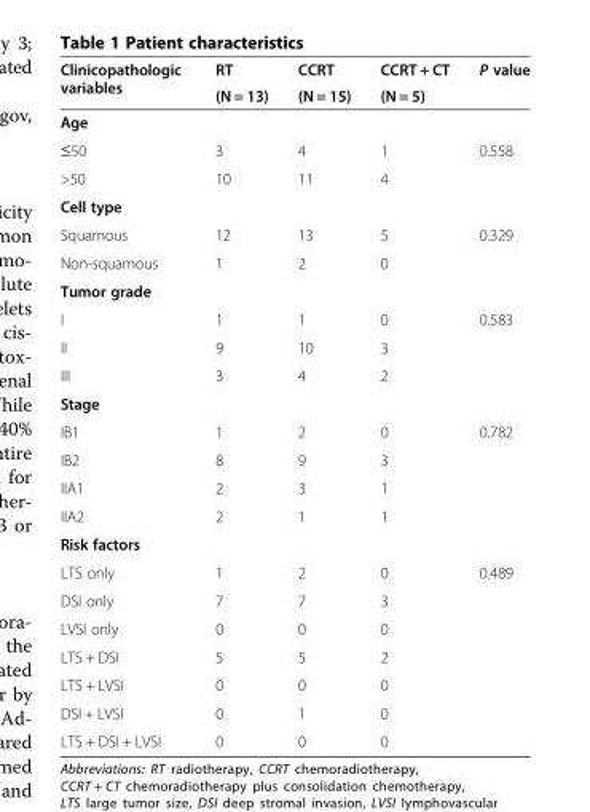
<table><thead><tr><td rowspan="2">Clinicopathologic variables</td><td rowspan="2">RT (N = 13)</td><td rowspan="2">CCRT (N = 15)</td><td rowspan="2">CCRT + CT (N = 5)</td><td rowspan="2">P value</td></tr><tr></tr></thead><tbody><tr><td colspan="5">Age</td></tr><tr><td>≤50</td><td>3</td><td>4</td><td>1</td><td>0.558</td></tr><tr><td>&gt;50</td><td>10</td><td>11</td><td>4</td><td></td></tr><tr><td colspan="5">Cell type</td></tr><tr><td>Squamous</td><td>12</td><td>13</td><td>5</td><td>0.329</td></tr><tr><td>Non-squamous</td><td>1</td><td>2</td><td>0</td><td></td></tr><tr><td colspan="5">Tumor grade</td></tr><tr><td>I</td><td>1</td><td>1</td><td>0</td><td>0.583</td></tr><tr><td>II</td><td>9</td><td>10</td><td>3</td><td></td></tr><tr><td>III</td><td>3</td><td>4</td><td>2</td><td></td></tr><tr><td colspan="5">Stage</td></tr><tr><td>IB1</td><td>1</td><td>2</td><td>0</td><td>0.782</td></tr><tr><td>IB2</td><td>8</td><td>9</td><td>3</td><td></td></tr><tr><td>IIA1</td><td>2</td><td>3</td><td>1</td><td></td></tr><tr><td>IIA2</td><td>2</td><td>1</td><td>1</td><td></td></tr><tr><td colspan="5">Risk factors</td></tr><tr><td>LTS only</td><td>1</td><td>2</td><td>0</td><td>0.489</td></tr><tr><td>DSI only</td><td>7</td><td>7</td><td>3</td><td></td></tr><tr><td>LVSI only</td><td>0</td><td>0</td><td>0</td><td></td></tr><tr><td>LTS + DSI</td><td>5</td><td>5</td><td>2</td><td></td></tr><tr><td>LTS + LVSI</td><td>0</td><td>0</td><td>0</td><td></td></tr><tr><td>DSI + LVSI</td><td>0</td><td>1</td><td>0</td><td></td></tr><tr><td>LTS + DSI + LVSI</td><td>0</td><td>0</td><td>0</td><td></td></tr></tbody></table>